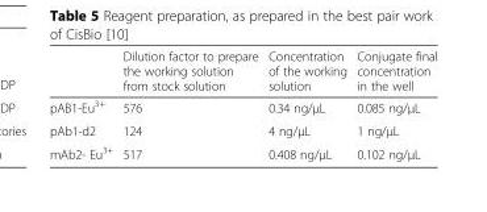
<table><thead><tr><td></td><td>Dilution factor to prepare the working solution from stock solution</td><td>Concentration of the working solution</td><td>Conjugate final concentration in the well</td></tr></thead><tbody><tr><td>pAB1-Eu<sup>3+</sup></td><td>576</td><td>0.34 ng/μL</td><td>0.085 ng/μL</td></tr><tr><td>pAb1-d2</td><td>124</td><td>4 ng/μL</td><td>1 ng/μL</td></tr><tr><td>mAb2- Eu<sup>3+</sup></td><td>517</td><td>0.408 ng/μL</td><td>0.102 ng/μL</td></tr></tbody></table>